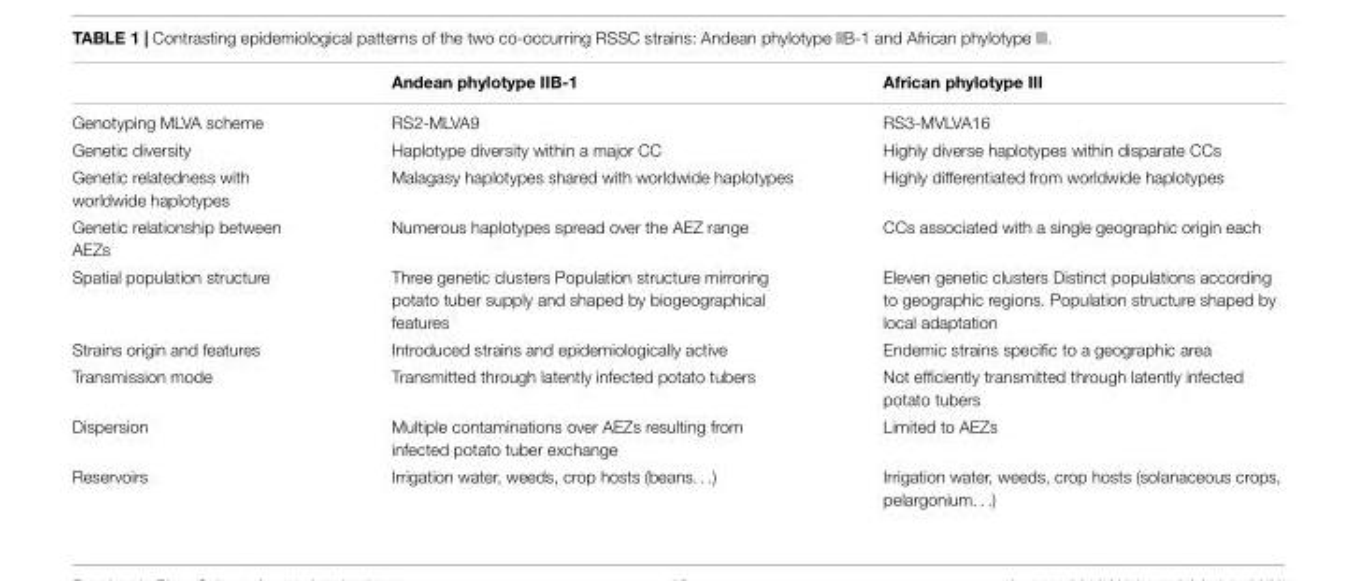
<table><thead><tr><td></td><td>Andean phylotype IIB-1</td><td>African phylotype III</td></tr></thead><tbody><tr><td>Genotyping MLVA scheme</td><td>RS2-MLVA9</td><td>RS3-MVLVA16</td></tr><tr><td>Genetic diversity</td><td>Haplotype diversity within a major CC</td><td>Highly diverse haplotypes within disparate CCs</td></tr><tr><td>Genetic relatedness with worldwide haplotypes</td><td>Malagasy haplotypes shared with worldwide haplotypes</td><td>Highly differentiated from worldwide haplotypes</td></tr><tr><td>Genetic relationship between AEZs</td><td>Numerous haplotypes spread over the AEZ range</td><td>CCs associated with a single geographic origin each</td></tr><tr><td>Spatial population structure</td><td>Three genetic clusters Population structure mirroring potato tuber supply and shaped by biogeographical features</td><td>Eleven genetic clusters Distinct populations according to geographic regions. Population structure shaped by local adaptation</td></tr><tr><td>Strains origin and features</td><td>Introduced strains and epidemiologically active</td><td>Endemic strains specific to a geographic area</td></tr><tr><td>Transmission mode</td><td>Transmitted through latently infected potato tubers</td><td>Not efficiently transmitted through latently infected potato tubers</td></tr><tr><td>Dispersion</td><td>Multiple contaminations over AEZs resulting from infected potato tuber exchange</td><td>Limited to AEZs</td></tr><tr><td>Reservoirs</td><td>Irrigation water, weeds, crop hosts (beans. . .)</td><td>Irrigation water, weeds, crop hosts (solanaceous crops, pelargonium. . .)</td></tr></tbody></table>